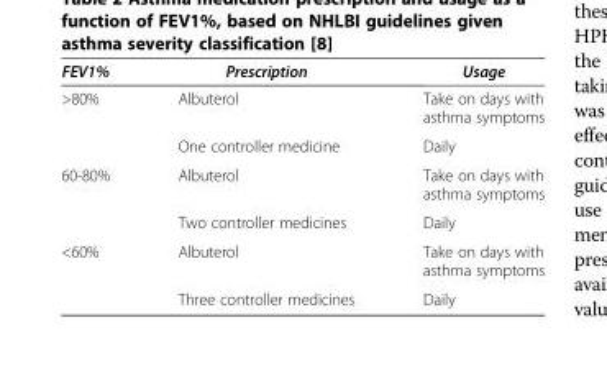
<table><thead><tr><td>FEV1%</td><td>Prescription</td><td>Usage</td></tr></thead><tbody><tr><td rowspan="2">&gt;80%</td><td>Albuterol</td><td>Take on days with asthma symptoms</td></tr><tr><td>One controller medicine</td><td>Daily</td></tr><tr><td rowspan="2">60-80%</td><td>Albuterol</td><td>Take on days with asthma symptoms</td></tr><tr><td>Two controller medicines</td><td>Daily</td></tr><tr><td rowspan="2">&lt;60%</td><td>Albuterol</td><td>Take on days with asthma symptoms</td></tr><tr><td>Three controller medicines</td><td>Daily</td></tr></tbody></table>